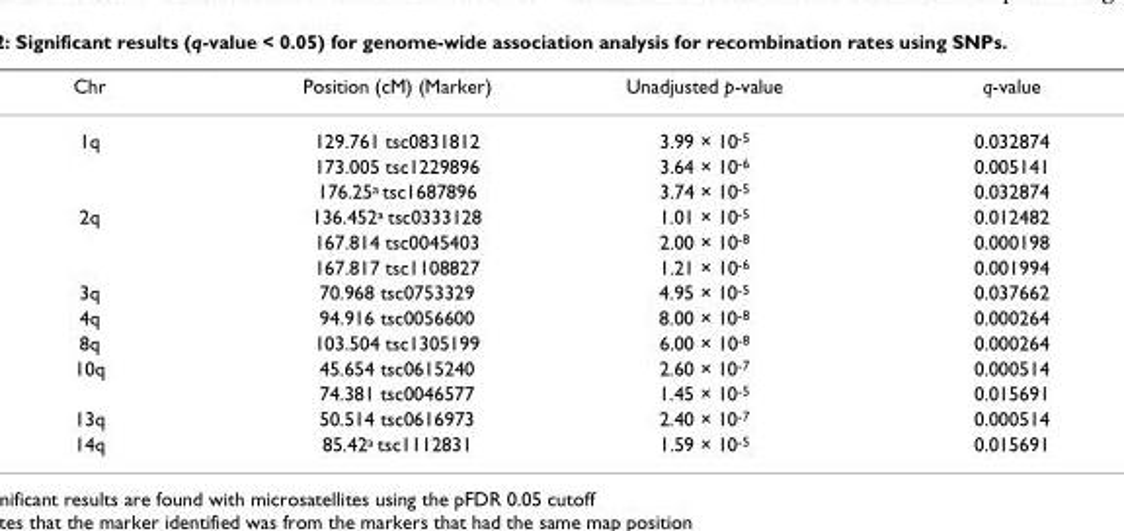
<table><thead><tr><td>Chr</td><td>Position (cM) (Marker)</td><td>Unadjusted p-value</td><td>q-value</td></tr></thead><tbody><tr><td rowspan="3">1q</td><td>129.761 tsc0831812</td><td>3.99 × 10-5</td><td>0.032874</td></tr><tr><td>173.005 tsc1229896</td><td>3.64 × 10-6</td><td>0.005141</td></tr><tr><td>176.25a tsc1687896</td><td>3.74 × 10-5</td><td>0.032874</td></tr><tr><td rowspan="3">2q</td><td>136.452a tsc0333128</td><td>1.01 × 10-5</td><td>0.012482</td></tr><tr><td>167.814 tsc0045403</td><td>2.00 × 10-8</td><td>0.000198</td></tr><tr><td>167.817 tsc1108827</td><td>1.21 × 10-6</td><td>0.001994</td></tr><tr><td>3q</td><td>70.968 tsc0753329</td><td>4.95 × 10-5</td><td>0.037662</td></tr><tr><td>4q</td><td>94.916 tsc0056600</td><td>8.00 × 10-8</td><td>0.000264</td></tr><tr><td>8q</td><td>103.504 tsc1305199</td><td>6.00 × 10-8</td><td>0.000264</td></tr><tr><td rowspan="2">10q</td><td>45.654 tsc0615240</td><td>2.60 × 10-7</td><td>0.000514</td></tr><tr><td>74.381 tsc0046577</td><td>1.45 × 10-5</td><td>0.015691</td></tr><tr><td>13q</td><td>50.514 tsc0616973</td><td>2.40 × 10-7</td><td>0.000514</td></tr><tr><td>14q</td><td>85.42a tsc1112831</td><td>1.59 × 10-5</td><td>0.015691</td></tr></tbody></table>